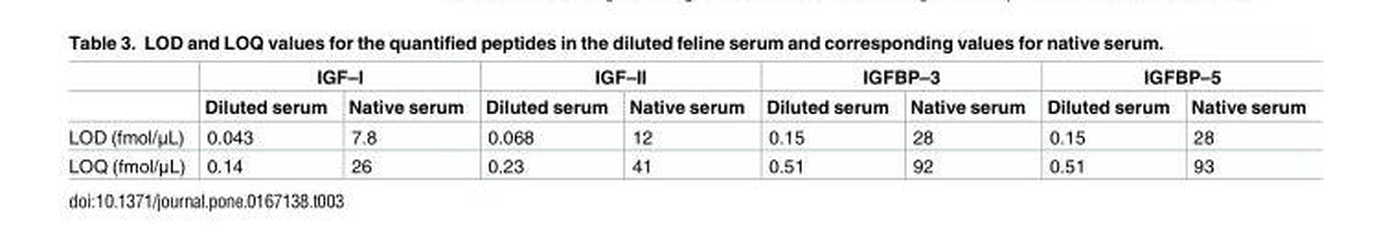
<table><thead><tr><td rowspan="2"></td><td colspan="2">IGF–I</td><td colspan="2">IGF–II</td><td colspan="2">IGFBP–3</td><td colspan="2">IGFBP–5</td></tr><tr><td>Diluted serum</td><td>Native serum</td><td>Diluted serum</td><td>Native serum</td><td>Diluted serum</td><td>Native serum</td><td>Diluted serum</td><td>Native serum</td></tr></thead><tbody><tr><td>LOD (fmol/μL)</td><td>0.043</td><td>7.8</td><td>0.068</td><td>12</td><td>0.15</td><td>28</td><td>0.15</td><td>28</td></tr><tr><td>LOQ (fmol/μL)</td><td>0.14</td><td>26</td><td>0.23</td><td>41</td><td>0.51</td><td>92</td><td>0.51</td><td>93</td></tr></tbody></table>